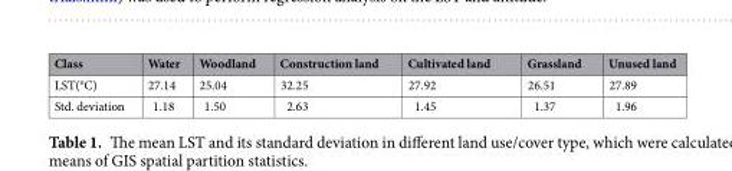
<table><thead><tr><td>Class</td><td>Water</td><td>Woodland</td><td>Construction land</td><td>Cultivated land</td><td>Grassland</td><td>Unused land</td></tr></thead><tbody><tr><td>LST(°C)</td><td>27.14</td><td>25.04</td><td>32.25</td><td>27.92</td><td>26.51</td><td>27.89</td></tr><tr><td>Std. deviation</td><td>1.18</td><td>1.50</td><td>2.63</td><td>1.45</td><td>1.37</td><td>1.96</td></tr></tbody></table>